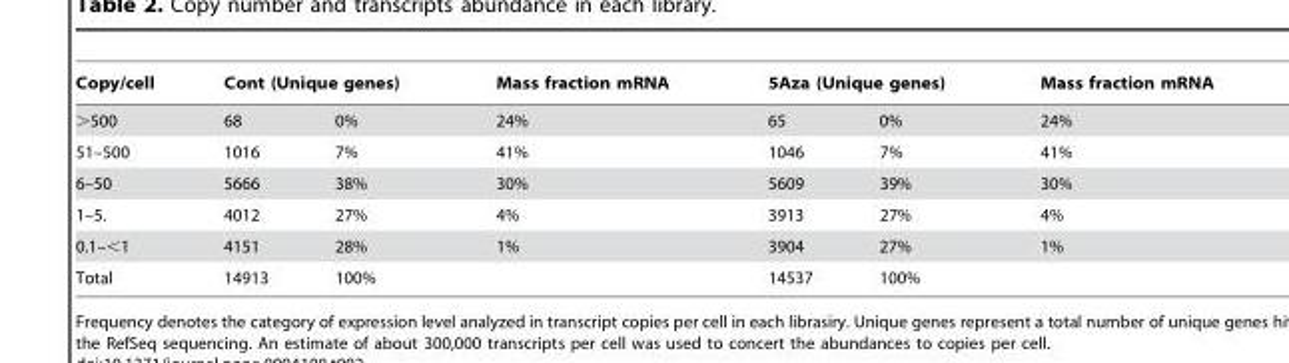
<table><thead><tr><td rowspan="2">Copy/cell &gt;500</td><td colspan="2">Cont (Unique genes)</td><td rowspan="2">Mass fraction mRNA 24%</td><td colspan="2">5Aza (Unique genes)</td><td rowspan="2">Mass fraction mRNA 24%</td></tr><tr><td>68</td><td>0%</td><td>65</td><td>0%</td></tr></thead><tbody><tr><td>51–500</td><td>1016</td><td>7%</td><td>41%</td><td>1046</td><td>7%</td><td>41%</td></tr><tr><td>6–50</td><td>5666</td><td>38%</td><td>30%</td><td>5609</td><td>39%</td><td>30%</td></tr><tr><td>1–5.</td><td>4012</td><td>27%</td><td>4%</td><td>3913</td><td>27%</td><td>4%</td></tr><tr><td>0.1–&lt;1</td><td>4151</td><td>28%</td><td>1%</td><td>3904</td><td>27%</td><td>1%</td></tr><tr><td>Total</td><td>14913</td><td>100%</td><td></td><td>14537</td><td>100%</td><td></td></tr></tbody></table>